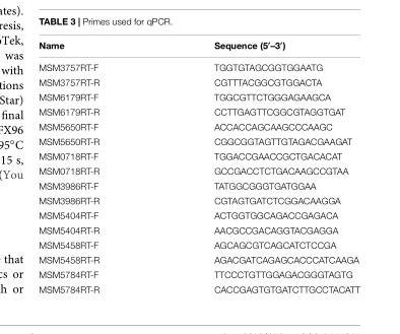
<table><thead><tr><td>Name</td><td>Sequence (5′–3′)</td></tr></thead><tbody><tr><td>MSM3757RT-F</td><td>TGGTGTAGCGGTGGAATG</td></tr><tr><td>MSM3757RT-R</td><td>CGTTTACGGCGTGGACTA</td></tr><tr><td>MSM6179RT-F</td><td>TGGCGTTCTGGGAGAAGCA</td></tr><tr><td>MSM6179RT-R</td><td>CCTTGAGTTCGGCGTAGGTGAT</td></tr><tr><td>MSM5650RT-F</td><td>ACCACCAGCAAGCCCAAGC</td></tr><tr><td>MSM5650RT-R</td><td>CGGCGGTAGTTGTAGACGAAGAT</td></tr><tr><td>MSM0718RT-F</td><td>TGGACCGAACCGCTGACACAT</td></tr><tr><td>MSM0718RT-R</td><td>GCCGACCTCTGACAAGCCGTAA</td></tr><tr><td>MSM3986RT-F</td><td>TATGGCGGGTGATGGAA</td></tr><tr><td>MSM3986RT-R</td><td>CGTAGTGATCTCGGACAAGGA</td></tr><tr><td>MSM5404RT-F</td><td>ACTGGTGGCAGACCGAGACA</td></tr><tr><td>MSM5404RT-R</td><td>AACGCCGACAGGTACGAGGA</td></tr><tr><td>MSM5458RT-F</td><td>AGCAGCGTCAGCATCTCCGA</td></tr><tr><td>MSM5458RT-R</td><td>AGACGATCAGAGCACCCATCAAGA</td></tr><tr><td>MSM5784RT-F</td><td>TTCCCTGTTGGAGACGGGTAGTG</td></tr><tr><td>MSM5784RT-R</td><td>CACCGAGTGTGATCTTGCCTACATT</td></tr></tbody></table>